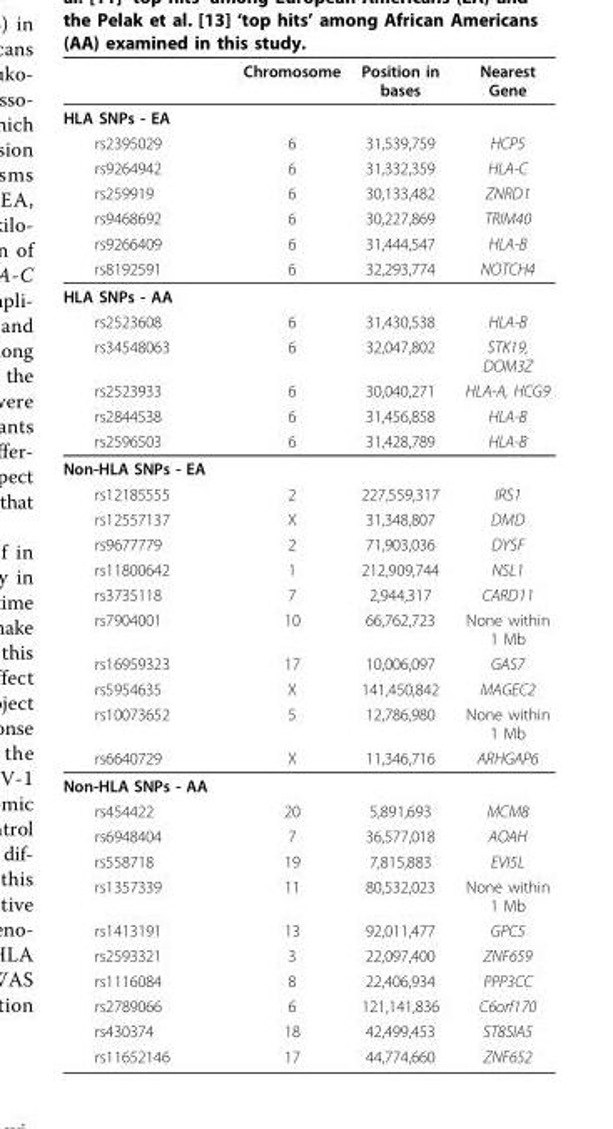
<table><thead><tr><td></td><td>Chromosome</td><td>Position in bases</td><td>Nearest Gene</td></tr></thead><tbody><tr><td colspan="4">HLA SNPs - EA</td></tr><tr><td>rs2395029</td><td>6</td><td>31,539,759</td><td>HCP5</td></tr><tr><td>rs9264942</td><td>6</td><td>31,332,359</td><td>HLA-C</td></tr><tr><td>rs259919</td><td>6</td><td>30,133,482</td><td>ZNRD1</td></tr><tr><td>rs9468692</td><td>6</td><td>30,227,869</td><td>TRIM40</td></tr><tr><td>rs9266409</td><td>6</td><td>31,444,547</td><td>HLA-B</td></tr><tr><td>rs8192591</td><td>6</td><td>32,293,774</td><td>NOTCH4</td></tr><tr><td colspan="4">HLA SNPs - AA</td></tr><tr><td>rs2523608</td><td>6</td><td>31,430,538</td><td>HLA-B</td></tr><tr><td>rs34548063</td><td>6</td><td>32,047,802</td><td>STK19, DOM3Z</td></tr><tr><td>rs2523933</td><td>6</td><td>30,040,271</td><td>HLA-A, HCG9</td></tr><tr><td>rs2844538</td><td>6</td><td>31,456,858</td><td>HLA-B</td></tr><tr><td>rs2596503</td><td>6</td><td>31,428,789</td><td>HLA-B</td></tr><tr><td colspan="4">Non-HLA SNPs - EA</td></tr><tr><td>rs12185555</td><td>2</td><td>227,559,317</td><td>IRS1</td></tr><tr><td>rs12557137</td><td>X</td><td>31,348,807</td><td>DMD</td></tr><tr><td>rs9677779</td><td>2</td><td>71,903,036</td><td>DYSF</td></tr><tr><td>rs11800642</td><td>1</td><td>212,909,744</td><td>NSL1</td></tr><tr><td>rs3735118</td><td>7</td><td>2,944,317</td><td>CARD11</td></tr><tr><td>rs7904001</td><td>10</td><td>66,762,723</td><td>None within 1 Mb</td></tr><tr><td>rs16959323</td><td>17</td><td>10,006,097</td><td>GAS7</td></tr><tr><td>rs5954635</td><td>X</td><td>141,450,842</td><td>MAGEC2</td></tr><tr><td>rs10073652</td><td>5</td><td>12,786,980</td><td>None within 1 Mb</td></tr><tr><td>rs6640729</td><td>X</td><td>11,346,716</td><td>ARHGAP6</td></tr><tr><td colspan="4">Non-HLA SNPs - AA</td></tr><tr><td>rs454422</td><td>20</td><td>5,891,693</td><td>MCM8</td></tr><tr><td>rs6948404</td><td>7</td><td>36,577,018</td><td>AOAH</td></tr><tr><td>rs558718</td><td>19</td><td>7,815,883</td><td>EVI5L</td></tr><tr><td>rs1357339</td><td>11</td><td>80,532,023</td><td>None within 1 Mb</td></tr><tr><td>rs1413191</td><td>13</td><td>92,011,477</td><td>GPC5</td></tr><tr><td>rs2593321</td><td>3</td><td>22,097,400</td><td>ZNF659</td></tr><tr><td>rs1116084</td><td>8</td><td>22,406,934</td><td>PPP3CC</td></tr><tr><td>rs2789066</td><td>6</td><td>121,141,836</td><td>C6orf170</td></tr><tr><td>rs430374</td><td>18</td><td>42,499,453</td><td>ST8SIA5</td></tr><tr><td>rs11652146</td><td>17</td><td>44,774,660</td><td>ZNF652</td></tr></tbody></table>